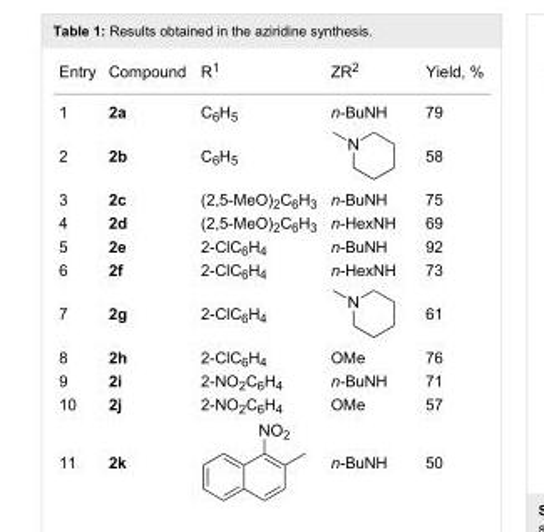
<table><tbody><tr><td>Entry</td><td>Compound</td><td>R<sup>1</sup></td><td>ZR<sup>2</sup></td><td>Yield, %</td></tr><tr><td>1</td><td>2a</td><td>C<sub>6</sub>H<sub>5</sub></td><td>n-BuNH</td><td>79</td></tr><tr><td>2</td><td>2b</td><td>C<sub>6</sub>H<sub>5</sub></td><td></td><td>58</td></tr><tr><td>3</td><td>2c</td><td>(2,5-MeO)<sub>2</sub>C<sub>6</sub>H<sub>3</sub></td><td>n-BuNH</td><td>75</td></tr><tr><td>4</td><td>2d</td><td>(2,5-MeO)<sub>2</sub>C<sub>6</sub>H<sub>3</sub></td><td>n-HexNH</td><td>69</td></tr><tr><td>5</td><td>2e</td><td>2-ClC<sub>6</sub>H<sub>4</sub></td><td>n-BuNH</td><td>92</td></tr><tr><td>6</td><td>2f</td><td>2-ClC<sub>6</sub>H<sub>4</sub></td><td>n-HexNH</td><td>73</td></tr><tr><td>7</td><td>2g</td><td>2-ClC<sub>6</sub>H<sub>4</sub></td><td></td><td>61</td></tr><tr><td>8</td><td>2h</td><td>2-ClC<sub>6</sub>H<sub>4</sub></td><td>OMe</td><td>76</td></tr><tr><td>9</td><td>2i</td><td>2-NO<sub>2</sub>C<sub>6</sub>H<sub>4</sub></td><td>n-BuNH</td><td>71</td></tr><tr><td>10</td><td>2j</td><td>2-NO<sub>2</sub>C<sub>6</sub>H<sub>4</sub></td><td>OMe</td><td>57</td></tr><tr><td>11</td><td>2k</td><td></td><td>n-BuNH</td><td>50</td></tr></tbody></table>